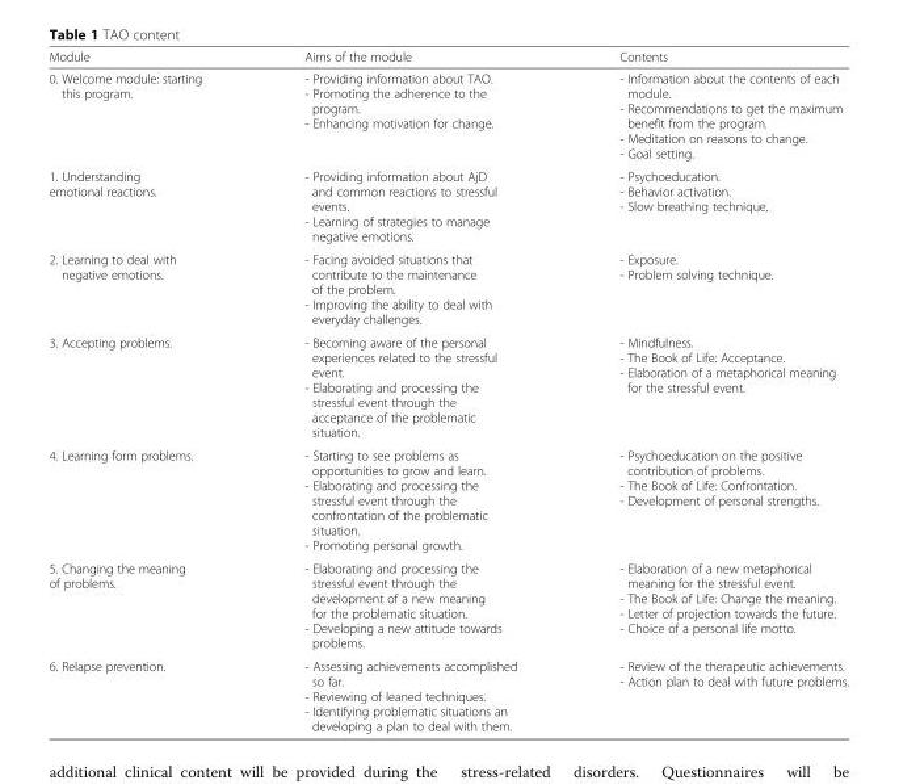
<table><thead><tr><td>Module</td><td>Aims of the module</td><td>Contents</td></tr></thead><tbody><tr><td>0. Welcome module: starting this program.</td><td>- Providing information about TAO. - Promoting the adherence to the program. - Enhancing motivation for change.</td><td>- Information about the contents of each module. - Recommendations to get the maximum benefit from the program. - Meditation on reasons to change. - Goal setting.</td></tr><tr><td>1. Understanding emotional reactions.</td><td>- Providing information about AjD and common reactions to stressful events. - Learning of strategies to manage negative emotions.</td><td>- Psychoeducation. - Behavior activation. - Slow breathing technique.</td></tr><tr><td>2. Learning to deal with negative emotions.</td><td>- Facing avoided situations that contribute to the maintenance of the problem. - Improving the ability to deal with everyday challenges.</td><td>- Exposure. - Problem solving technique.</td></tr><tr><td>3. Accepting problems.</td><td>- Becoming aware of the personal experiences related to the stressful event. - Elaborating and processing the stressful event through the acceptance of the problematic situation.</td><td>- Mindfulness. - The Book of Life: Acceptance. - Elaboration of a metaphorical meaning for the stressful event.</td></tr><tr><td>4. Learning form problems.</td><td>- Starting to see problems as opportunities to grow and learn. - Elaborating and processing the stressful event through the confrontation of the problematic situation. - Promoting personal growth.</td><td>- Psychoeducation on the positive contribution of problems. - The Book of Life: Confrontation. - Development of personal strengths.</td></tr><tr><td>5. Changing the meaning of problems.</td><td>- Elaborating and processing the stressful event through the development of a new meaning for the problematic situation. - Developing a new attitude towards problems.</td><td>- Elaboration of a new metaphorical meaning for the stressful event. - The Book of Life: Change the meaning. - Letter of projection towards the future. - Choice of a personal life motto.</td></tr><tr><td>6. Relapse prevention.</td><td>- Assessing achievements accomplished so far. - Reviewing of leaned techniques. - Identifying problematic situations an developing a plan to deal with them.</td><td>- Review of the therapeutic achievements. - Action plan to deal with future problems.</td></tr></tbody></table>